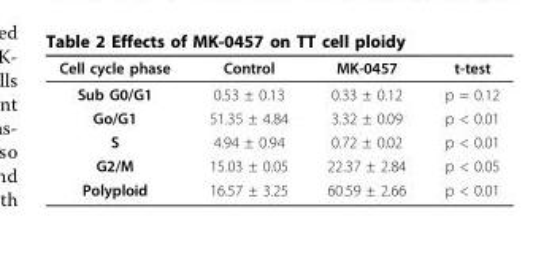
<table><thead><tr><td>Cell cycle phase</td><td>Control</td><td>MK-0457</td><td>t-test</td></tr></thead><tbody><tr><td>Sub G0/G1</td><td>0.53 ± 0.13</td><td>0.33 ± 0.12</td><td>p = 0.12</td></tr><tr><td>Go/G1</td><td>51.35 ± 4.84</td><td>3.32 ± 0.09</td><td>p &lt; 0.01</td></tr><tr><td>S</td><td>4.94 ± 0.94</td><td>0.72 ± 0.02</td><td>p &lt; 0.01</td></tr><tr><td>G2/M</td><td>15.03 ± 0.05</td><td>22.37 ± 2.84</td><td>p &lt; 0.05</td></tr><tr><td>Polyploid</td><td>16.57 ± 3.25</td><td>60.59 ± 2.66</td><td>p &lt; 0.01</td></tr></tbody></table>